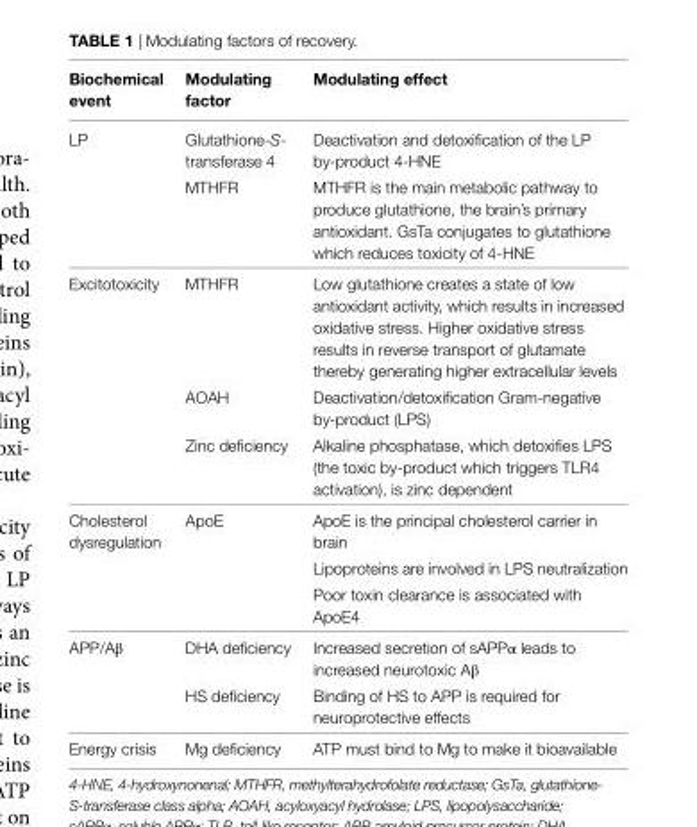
<table><thead><tr><td>Biochemical event</td><td>Modulating factor</td><td>Modulating effect</td></tr></thead><tbody><tr><td rowspan="2">LP</td><td>Glutathione-S- transferase 4</td><td>Deactivation and detoxification of the LP by-product 4-HNE</td></tr><tr><td>MTHFR</td><td>MTHFR is the main metabolic pathway to produce glutathione, the brain’s primary antioxidant. GsTa conjugates to glutathione which reduces toxicity of 4-HNE</td></tr><tr><td rowspan="3">Excitotoxicity</td><td>MTHFR</td><td>Low glutathione creates a state of low antioxidant activity, which results in increased oxidative stress. Higher oxidative stress results in reverse transport of glutamate thereby generating higher extracellular levels</td></tr><tr><td>AOAH</td><td>Deactivation/detoxification Gram-negative by-product (LPS)</td></tr><tr><td>Zinc deficiency</td><td>Alkaline phosphatase, which detoxifies LPS (the toxic by-product which triggers TLR4 activation), is zinc dependent</td></tr><tr><td rowspan="3">Cholesterol dysregulation</td><td rowspan="3">ApoE</td><td>ApoE is the principal cholesterol carrier in brain</td></tr><tr><td>Lipoproteins are involved in LPS neutralization</td></tr><tr><td>Poor toxin clearance is associated with ApoE4</td></tr><tr><td rowspan="2">APP/Aβ</td><td>DHA deficiency</td><td>Increased secretion of sAPPα leads to increased neurotoxic Aβ</td></tr><tr><td>HS deficiency</td><td>Binding of HS to APP is required for neuroprotective effects</td></tr><tr><td>Energy crisis</td><td>Mg deficiency</td><td>ATP must bind to Mg to make it bioavailable</td></tr></tbody></table>